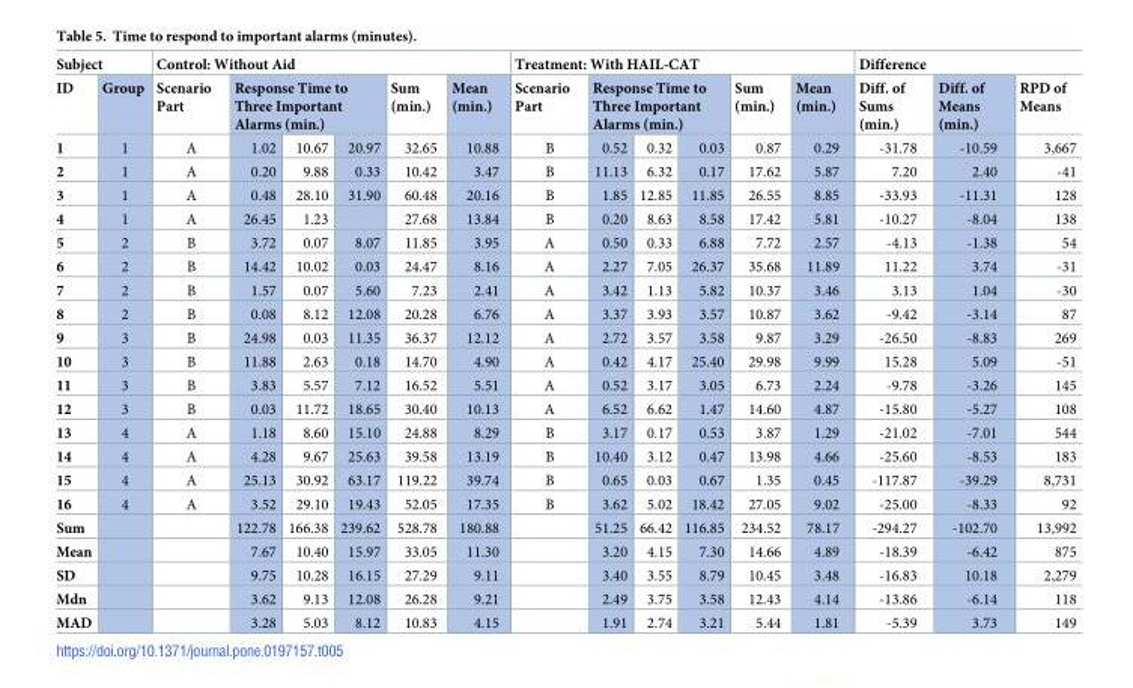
<table><thead><tr><td colspan="2">Subject</td><td colspan="6">Control: Without Aid</td><td colspan="6">Treatment: With HAIL-CAT</td><td colspan="3">Difference</td></tr><tr><td rowspan="2">ID 1</td><td rowspan="2">Group 1</td><td rowspan="2">Scenario Part A</td><td colspan="3">Response Time to Three Important Alarms (min.)</td><td rowspan="2">Sum (min.) 32.65</td><td rowspan="2">Mean (min.) 10.88</td><td rowspan="2">Scenario Part B</td><td colspan="3">Response Time to Three Important Alarms (min.)</td><td rowspan="2">Sum (min.) 0.87</td><td rowspan="2">Mean (min.) 0.29</td><td rowspan="2">Diff. of Sums (min.) -31.78</td><td rowspan="2">Diff. of Means (min.) -10.59</td><td rowspan="2">RPD of Means 3,667</td></tr><tr><td>1.02</td><td>10.67</td><td>20.97</td><td>0.52</td><td>0.32</td><td>0.03</td></tr></thead><tbody><tr><td>2</td><td>1</td><td>A</td><td>0.20</td><td>9.88</td><td>0.33</td><td>10.42</td><td>3.47</td><td>B</td><td>11.13</td><td>6.32</td><td>0.17</td><td>17.62</td><td>5.87</td><td>7.20</td><td>2.40</td><td>-41</td></tr><tr><td>3</td><td>1</td><td>A</td><td>0.48</td><td>28.10</td><td>31.90</td><td>60.48</td><td>20.16</td><td>B</td><td>1.85</td><td>12.85</td><td>11.85</td><td>26.55</td><td>8.85</td><td>-33.93</td><td>-11.31</td><td>128</td></tr><tr><td>4</td><td>1</td><td>A</td><td>26.45</td><td>1.23</td><td></td><td>27.68</td><td>13.84</td><td>B</td><td>0.20</td><td>8.63</td><td>8.58</td><td>17.42</td><td>5.81</td><td>-10.27</td><td>-8.04</td><td>138</td></tr><tr><td>5</td><td>2</td><td>B</td><td>3.72</td><td>0.07</td><td>8.07</td><td>11.85</td><td>3.95</td><td>A</td><td>0.50</td><td>0.33</td><td>6.88</td><td>7.72</td><td>2.57</td><td>-4.13</td><td>-1.38</td><td>54</td></tr><tr><td>6</td><td>2</td><td>B</td><td>14.42</td><td>10.02</td><td>0.03</td><td>24.47</td><td>8.16</td><td>A</td><td>2.27</td><td>7.05</td><td>26.37</td><td>35.68</td><td>11.89</td><td>11.22</td><td>3.74</td><td>-31</td></tr><tr><td>7</td><td>2</td><td>B</td><td>1.57</td><td>0.07</td><td>5.60</td><td>7.23</td><td>2.41</td><td>A</td><td>3.42</td><td>1.13</td><td>5.82</td><td>10.37</td><td>3.46</td><td>3.13</td><td>1.04</td><td>-30</td></tr><tr><td>8</td><td>2</td><td>B</td><td>0.08</td><td>8.12</td><td>12.08</td><td>20.28</td><td>6.76</td><td>A</td><td>3.37</td><td>3.93</td><td>3.57</td><td>10.87</td><td>3.62</td><td>-9.42</td><td>-3.14</td><td>87</td></tr><tr><td>9</td><td>3</td><td>B</td><td>24.98</td><td>0.03</td><td>11.35</td><td>36.37</td><td>12.12</td><td>A</td><td>2.72</td><td>3.57</td><td>3.58</td><td>9.87</td><td>3.29</td><td>-26.50</td><td>-8.83</td><td>269</td></tr><tr><td>10</td><td>3</td><td>B</td><td>11.88</td><td>2.63</td><td>0.18</td><td>14.70</td><td>4.90</td><td>A</td><td>0.42</td><td>4.17</td><td>25.40</td><td>29.98</td><td>9.99</td><td>15.28</td><td>5.09</td><td>-51</td></tr><tr><td>11</td><td>3</td><td>B</td><td>3.83</td><td>5.57</td><td>7.12</td><td>16.52</td><td>5.51</td><td>A</td><td>0.52</td><td>3.17</td><td>3.05</td><td>6.73</td><td>2.24</td><td>-9.78</td><td>-3.26</td><td>145</td></tr><tr><td>12</td><td>3</td><td>B</td><td>0.03</td><td>11.72</td><td>18.65</td><td>30.40</td><td>10.13</td><td>A</td><td>6.52</td><td>6.62</td><td>1.47</td><td>14.60</td><td>4.87</td><td>-15.80</td><td>-5.27</td><td>108</td></tr><tr><td>13</td><td>4</td><td>A</td><td>1.18</td><td>8.60</td><td>15.10</td><td>24.88</td><td>8.29</td><td>B</td><td>3.17</td><td>0.17</td><td>0.53</td><td>3.87</td><td>1.29</td><td>-21.02</td><td>-7.01</td><td>544</td></tr><tr><td>14</td><td>4</td><td>A</td><td>4.28</td><td>9.67</td><td>25.63</td><td>39.58</td><td>13.19</td><td>B</td><td>10.40</td><td>3.12</td><td>0.47</td><td>13.98</td><td>4.66</td><td>-25.60</td><td>-8.53</td><td>183</td></tr><tr><td>15</td><td>4</td><td>A</td><td>25.13</td><td>30.92</td><td>63.17</td><td>119.22</td><td>39.74</td><td>B</td><td>0.65</td><td>0.03</td><td>0.67</td><td>1.35</td><td>0.45</td><td>-117.87</td><td>-39.29</td><td>8,731</td></tr><tr><td>16</td><td>4</td><td>A</td><td>3.52</td><td>29.10</td><td>19.43</td><td>52.05</td><td>17.35</td><td>B</td><td>3.62</td><td>5.02</td><td>18.42</td><td>27.05</td><td>9.02</td><td>-25.00</td><td>-8.33</td><td>92</td></tr><tr><td>Sum</td><td></td><td></td><td>122.78</td><td>166.38</td><td>239.62</td><td>528.78</td><td>180.88</td><td></td><td>51.25</td><td>66.42</td><td>116.85</td><td>234.52</td><td>78.17</td><td>-294.27</td><td>-102.70</td><td>13,992</td></tr><tr><td>Mean</td><td></td><td></td><td>7.67</td><td>10.40</td><td>15.97</td><td>33.05</td><td>11.30</td><td></td><td>3.20</td><td>4.15</td><td>7.30</td><td>14.66</td><td>4.89</td><td>-18.39</td><td>-6.42</td><td>875</td></tr><tr><td>SD</td><td></td><td></td><td>9.75</td><td>10.28</td><td>16.15</td><td>27.29</td><td>9.11</td><td></td><td>3.40</td><td>3.55</td><td>8.79</td><td>10.45</td><td>3.48</td><td>-16.83</td><td>10.18</td><td>2,279</td></tr><tr><td>Mdn</td><td></td><td></td><td>3.62</td><td>9.13</td><td>12.08</td><td>26.28</td><td>9.21</td><td></td><td>2.49</td><td>3.75</td><td>3.58</td><td>12.43</td><td>4.14</td><td>-13.86</td><td>-6.14</td><td>118</td></tr><tr><td>MAD</td><td></td><td></td><td>3.28</td><td>5.03</td><td>8.12</td><td>10.83</td><td>4.15</td><td></td><td>1.91</td><td>2.74</td><td>3.21</td><td>5.44</td><td>1.81</td><td>-5.39</td><td>3.73</td><td>149</td></tr></tbody></table>